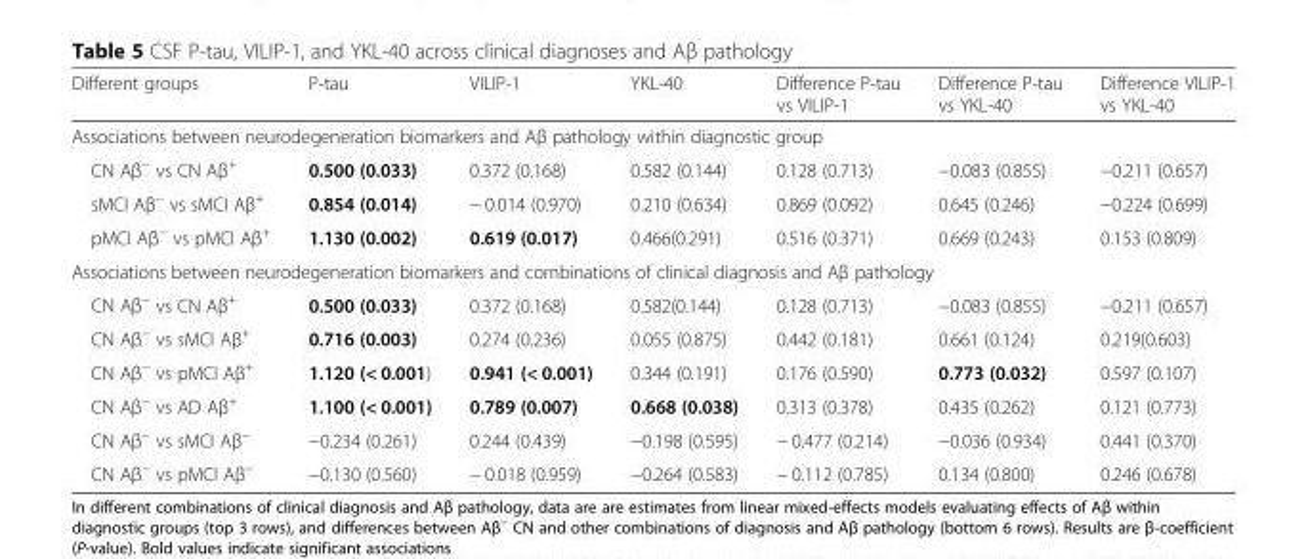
<table><thead><tr><td>Different groups</td><td>P-tau</td><td>VILIP-1</td><td>YKL-40</td><td>Difference P-tau vs VILIP-1</td><td>Difference P-tau vs YKL-40</td><td>Difference VILIP-1 vs YKL-40</td></tr></thead><tbody><tr><td colspan="7">Associations between neurodegeneration biomarkers and Aβ pathology within diagnostic group</td></tr><tr><td>CN Aβ<sup>−</sup> vs CN Aβ<sup>+</sup></td><td>0.500 (0.033)</td><td>0.372 (0.168)</td><td>0.582 (0.144)</td><td>0.128 (0.713)</td><td>−0.083 (0.855)</td><td>−0.211 (0.657)</td></tr><tr><td>sMCI Aβ<sup>−</sup> vs sMCI Aβ<sup>+</sup></td><td>0.854 (0.014)</td><td>− 0.014 (0.970)</td><td>0.210 (0.634)</td><td>0.869 (0.092)</td><td>0.645 (0.246)</td><td>−0.224 (0.699)</td></tr><tr><td>pMCI Aβ<sup>−</sup> vs pMCI Aβ<sup>+</sup></td><td>1.130 (0.002)</td><td>0.619 (0.017)</td><td>0.466(0.291)</td><td>0.516 (0.371)</td><td>0.669 (0.243)</td><td>0.153 (0.809)</td></tr><tr><td colspan="7">Associations between neurodegeneration biomarkers and combinations of clinical diagnosis and Aβ pathology</td></tr><tr><td>CN Aβ<sup>−</sup> vs CN Aβ<sup>+</sup></td><td>0.500 (0.033)</td><td>0.372 (0.168)</td><td>0.582(0.144)</td><td>0.128 (0.713)</td><td>−0.083 (0.855)</td><td>−0.211 (0.657)</td></tr><tr><td>CN Aβ<sup>−</sup> vs sMCI Aβ<sup>+</sup></td><td>0.716 (0.003)</td><td>0.274 (0.236)</td><td>0.055 (0.875)</td><td>0.442 (0.181)</td><td>0.661 (0.124)</td><td>0.219(0.603)</td></tr><tr><td>CN Aβ<sup>−</sup> vs pMCI Aβ<sup>+</sup></td><td>1.120 (&lt; 0.001)</td><td>0.941 (&lt; 0.001)</td><td>0.344 (0.191)</td><td>0.176 (0.590)</td><td>0.773 (0.032)</td><td>0.597 (0.107)</td></tr><tr><td>CN Aβ<sup>−</sup> vs AD Aβ<sup>+</sup></td><td>1.100 (&lt; 0.001)</td><td>0.789 (0.007)</td><td>0.668 (0.038)</td><td>0.313 (0.378)</td><td>0.435 (0.262)</td><td>0.121 (0.773)</td></tr><tr><td>CN Aβ<sup>−</sup> vs sMCI Aβ<sup>−</sup></td><td>−0.234 (0.261)</td><td>0.244 (0.439)</td><td>−0.198 (0.595)</td><td>− 0.477 (0.214)</td><td>−0.036 (0.934)</td><td>0.441 (0.370)</td></tr><tr><td>CN Aβ<sup>−</sup> vs pMCI Aβ<sup>−</sup></td><td>−0.130 (0.560)</td><td>− 0.018 (0.959)</td><td>−0.264 (0.583)</td><td>− 0.112 (0.785)</td><td>0.134 (0.800)</td><td>0.246 (0.678)</td></tr></tbody></table>